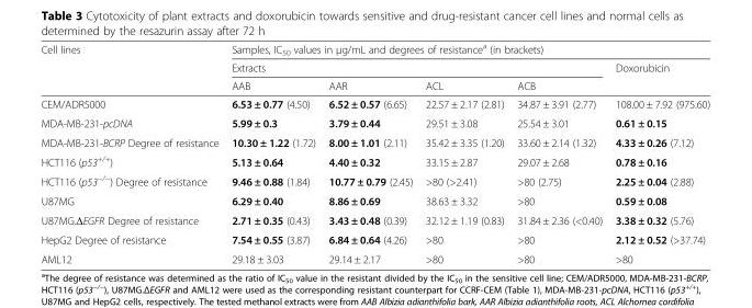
<table><thead><tr><td rowspan="3">Cell lines</td><td colspan="5">Samples, IC<sub>50</sub> values in μg/mL and degrees of resistance<sup>a</sup> (in brackets)</td></tr><tr><td colspan="4">Extracts</td><td rowspan="2">Doxorubicin</td></tr><tr><td>AAB</td><td>AAR</td><td>ACL</td><td>ACB</td></tr></thead><tbody><tr><td>CEM/ADR5000</td><td>6.53 ± 0.77 (4.50)</td><td>6.52 ± 0.57 (6.65)</td><td>22.57 ± 2.17 (2.81)</td><td>34.87 ± 3.91 (2.77)</td><td>108.00 ± 7.92 (975.60)</td></tr><tr><td>MDA-MB-231-pcDNA</td><td>5.99 ± 0.3</td><td>3.79 ± 0.44</td><td>29.51 ± 3.08</td><td>25.54 ± 3.01</td><td>0.61 ± 0.15</td></tr><tr><td>MDA-MB-231-BCRP Degree of resistance</td><td>10.30 ± 1.22 (1.72)</td><td>8.00 ± 1.01 (2.11)</td><td>35.42 ± 3.35 (1.20)</td><td>33.60 ± 2.14 (1.32)</td><td>4.33 ± 0.26 (7.12)</td></tr><tr><td>HCT116 (p53<sup>+/+</sup>)</td><td>5.13 ± 0.64</td><td>4.40 ± 0.32</td><td>33.15 ± 2.87</td><td>29.07 ± 2.68</td><td>0.78 ± 0.16</td></tr><tr><td>HCT116 (p53<sup>−/−</sup>) Degree of resistance</td><td>9.46 ± 0.88 (1.84)</td><td>10.77 ± 0.79 (2.45)</td><td>&gt;80 (&gt;2.41)</td><td>&gt;80 (2.75)</td><td>2.25 ± 0.04 (2.88)</td></tr><tr><td>U87MG</td><td>6.29 ± 0.40</td><td>8.86 ± 0.69</td><td>38.63 ± 3.32</td><td>&gt;80</td><td>0.59 ± 0.08</td></tr><tr><td>U87MG.ΔEGFR Degree of resistance</td><td>2.71 ± 0.35 (0.43)</td><td>3.43 ± 0.48 (0.39)</td><td>32.12 ± 1.19 (0.83)</td><td>31.84 ± 2.36 (&lt;0.40)</td><td>3.38 ± 0.32 (5.76)</td></tr><tr><td>HepG2 Degree of resistance</td><td>7.54 ± 0.55 (3.87)</td><td>6.84 ± 0.64 (4.26)</td><td>&gt;80</td><td>&gt;80</td><td>2.12 ± 0.52 (&gt;37.74)</td></tr><tr><td>AML12</td><td>29.18 ± 3.03</td><td>29.14 ± 2.17</td><td>&gt;80</td><td>&gt;80</td><td>&gt;80</td></tr></tbody></table>